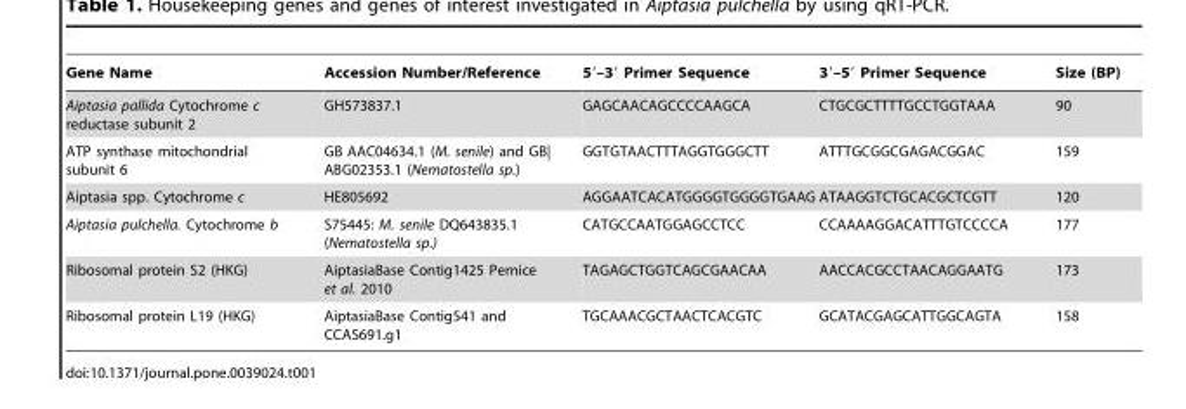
<table><thead><tr><td>Gene Name</td><td>Accession Number/Reference</td><td>5′–3′ Primer Sequence</td><td>3′–5′ Primer Sequence</td><td>Size (BP)</td></tr></thead><tbody><tr><td>Aiptasia pallida Cytochrome c reductase subunit 2</td><td>GH573837.1</td><td>GAGCAACAGCCCCAAGCA</td><td>CTGCGCTTTTGCCTGGTAAA</td><td>90</td></tr><tr><td>ATP synthase mitochondrial subunit 6</td><td>GB AAC04634.1 (M. senile) and GB| ABG02353.1 (Nematostella sp.)</td><td>GGTGTAACTTTAGGTGGGCTT</td><td>ATTTGCGGCGAGACGGAC</td><td>159</td></tr><tr><td>Aiptasia spp. Cytochrome c</td><td>HE805692</td><td>AGGAATCACATGGGGTGGGGTGAAG</td><td>ATAAGGTCTGCACGCTCGTT</td><td>120</td></tr><tr><td>Aiptasia pulchella. Cytochrome b</td><td>S75445: M. senile DQ643835.1 (Nematostella sp.)</td><td>CATGCCAATGGAGCCTCC</td><td>CCAAAAGGACATTTGTCCCCA</td><td>177</td></tr><tr><td>Ribosomal protein S2 (HKG)</td><td>AiptasiaBase Contig1425 Pernice et al. 2010</td><td>TAGAGCTGGTCAGCGAACAA</td><td>AACCACGCCTAACAGGAATG</td><td>173</td></tr><tr><td>Ribosomal protein L19 (HKG)</td><td>AiptasiaBase Contig541 and CCAS691.g1</td><td>TGCAAACGCTAACTCACGTC</td><td>GCATACGAGCATTGGCAGTA</td><td>158</td></tr></tbody></table>